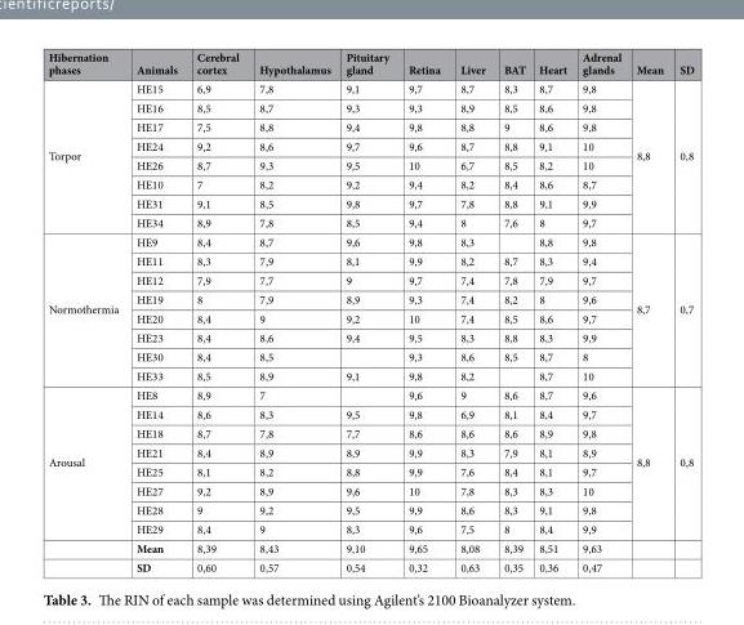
<table><thead><tr><td>Hibernation phases</td><td>Animals</td><td>Cerebral cortex</td><td>Hypothalamus</td><td>Pituitary gland</td><td>Retina</td><td>Liver</td><td>BAT</td><td>Heart</td><td>Adrenal glands</td><td>Mean</td><td>SD</td></tr></thead><tbody><tr><td rowspan="8">Torpor</td><td>HE15</td><td>6,9</td><td>7,8</td><td>9,1</td><td>9,7</td><td>8,7</td><td>8,3</td><td>8,7</td><td>9,8</td><td rowspan="8">8,8</td><td rowspan="8">0,8</td></tr><tr><td>HE16</td><td>8,5</td><td>8,7</td><td>9,3</td><td>9,3</td><td>8,9</td><td>8,5</td><td>8,6</td><td>9,8</td></tr><tr><td>HE17</td><td>7,5</td><td>8,8</td><td>9,4</td><td>9,8</td><td>8,8</td><td>9</td><td>8,6</td><td>9,8</td></tr><tr><td>HE24</td><td>9,2</td><td>8,6</td><td>9,7</td><td>9,6</td><td>8,7</td><td>8,8</td><td>9,1</td><td>10</td></tr><tr><td>HE26</td><td>8,7</td><td>9,3</td><td>9,5</td><td>10</td><td>6,7</td><td>8,5</td><td>8,2</td><td>10</td></tr><tr><td>HE10</td><td>7</td><td>8,2</td><td>9,2</td><td>9,4</td><td>8,2</td><td>8,4</td><td>8,6</td><td>8,7</td></tr><tr><td>HE31</td><td>9,1</td><td>8,5</td><td>9,8</td><td>9,7</td><td>7,8</td><td>8,8</td><td>9,1</td><td>9,9</td></tr><tr><td>HE34</td><td>8,9</td><td>7,8</td><td>8,5</td><td>9,4</td><td>8</td><td>7,6</td><td>8</td><td>9,7</td></tr><tr><td rowspan="8">Normothermia</td><td>HE9</td><td>8,4</td><td>8,7</td><td>9,6</td><td>9,8</td><td>8,3</td><td></td><td>8,8</td><td>9,8</td><td rowspan="8">8,7</td><td rowspan="8">0,7</td></tr><tr><td>HE11</td><td>8,3</td><td>7,9</td><td>8,1</td><td>9,9</td><td>8,2</td><td>8,7</td><td>8,3</td><td>9,4</td></tr><tr><td>HE12</td><td>7,9</td><td>7,7</td><td>9</td><td>9,7</td><td>7,4</td><td>7,8</td><td>7,9</td><td>9,7</td></tr><tr><td>HE19</td><td>8</td><td>7,9</td><td>8,9</td><td>9,3</td><td>7,4</td><td>8,2</td><td>8</td><td>9,6</td></tr><tr><td>HE20</td><td>8,4</td><td>9</td><td>9,2</td><td>10</td><td>7,4</td><td>8,5</td><td>8,6</td><td>9,7</td></tr><tr><td>HE23</td><td>8,4</td><td>8,6</td><td>9,4</td><td>9,5</td><td>8,3</td><td>8,8</td><td>8,3</td><td>9,9</td></tr><tr><td>HE30</td><td>8,4</td><td>8,5</td><td></td><td>9,3</td><td>8,6</td><td>8,5</td><td>8,7</td><td>8</td></tr><tr><td>HE33</td><td>8,5</td><td>8,9</td><td>9,1</td><td>9,8</td><td>8,2</td><td></td><td>8,7</td><td>10</td></tr><tr><td rowspan="10">Arousal</td><td>HE8</td><td>8,9</td><td>7</td><td></td><td>9,6</td><td>9</td><td>8,6</td><td>8,7</td><td>9,6</td><td rowspan="8">8,8</td><td rowspan="8">0,8</td></tr><tr><td>HE14</td><td>8,6</td><td>8,3</td><td>9,5</td><td>9,8</td><td>6,9</td><td>8,1</td><td>8,4</td><td>9,7</td></tr><tr><td>HE18</td><td>8,7</td><td>7,8</td><td>7,7</td><td>8,6</td><td>8,6</td><td>8,6</td><td>8,9</td><td>9,8</td></tr><tr><td>HE21</td><td>8,4</td><td>8,9</td><td>8,9</td><td>9,9</td><td>8,3</td><td>7,9</td><td>8,1</td><td>8,9</td></tr><tr><td>HE25</td><td>8,1</td><td>8,2</td><td>8,8</td><td>9,9</td><td>7,6</td><td>8,4</td><td>8,1</td><td>9,7</td></tr><tr><td>HE27</td><td>9,2</td><td>8,9</td><td>9,6</td><td>10</td><td>7,8</td><td>8,3</td><td>8,3</td><td>10</td></tr><tr><td>HE28</td><td>9</td><td>9,2</td><td>9,5</td><td>9,9</td><td>8,6</td><td>8,3</td><td>9,1</td><td>9,8</td></tr><tr><td>HE29</td><td>8,4</td><td>9</td><td>8,3</td><td>9,6</td><td>7,5</td><td>8</td><td>8,4</td><td>9,9</td></tr><tr><td>Mean</td><td>8,39</td><td>8,43</td><td>9,10</td><td>9,65</td><td>8,08</td><td>8,39</td><td>8,51</td><td>9,63</td><td></td><td></td></tr><tr><td>SD</td><td>0,60</td><td>0,57</td><td>0,54</td><td>0,32</td><td>0,63</td><td>0,35</td><td>0,36</td><td>0,47</td><td></td><td></td></tr></tbody></table>